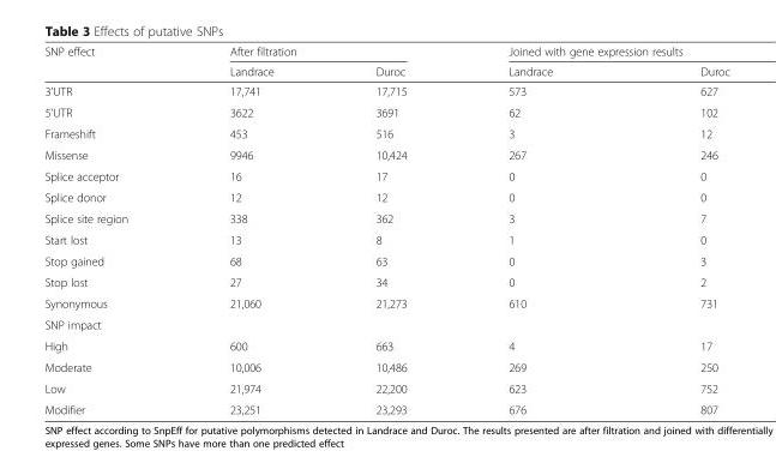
<table><thead><tr><td rowspan="2">SNP effect</td><td colspan="2">After filtration</td><td colspan="2">Joined with gene expression results</td></tr><tr><td>Landrace</td><td>Duroc</td><td>Landrace</td><td>Duroc</td></tr></thead><tbody><tr><td>3’UTR</td><td>17,741</td><td>17,715</td><td>573</td><td>627</td></tr><tr><td>5’UTR</td><td>3622</td><td>3691</td><td>62</td><td>102</td></tr><tr><td>Frameshift</td><td>453</td><td>516</td><td>3</td><td>12</td></tr><tr><td>Missense</td><td>9946</td><td>10,424</td><td>267</td><td>246</td></tr><tr><td>Splice acceptor</td><td>16</td><td>17</td><td>0</td><td>0</td></tr><tr><td>Splice donor</td><td>12</td><td>12</td><td>0</td><td>0</td></tr><tr><td>Splice site region</td><td>338</td><td>362</td><td>3</td><td>7</td></tr><tr><td>Start lost</td><td>13</td><td>8</td><td>1</td><td>0</td></tr><tr><td>Stop gained</td><td>68</td><td>63</td><td>0</td><td>3</td></tr><tr><td>Stop lost</td><td>27</td><td>34</td><td>0</td><td>2</td></tr><tr><td>Synonymous</td><td>21,060</td><td>21,273</td><td>610</td><td>731</td></tr><tr><td colspan="5">SNP impact</td></tr><tr><td>High</td><td>600</td><td>663</td><td>4</td><td>17</td></tr><tr><td>Moderate</td><td>10,006</td><td>10,486</td><td>269</td><td>250</td></tr><tr><td>Low</td><td>21,974</td><td>22,200</td><td>623</td><td>752</td></tr><tr><td>Modifier</td><td>23,251</td><td>23,293</td><td>676</td><td>807</td></tr></tbody></table>